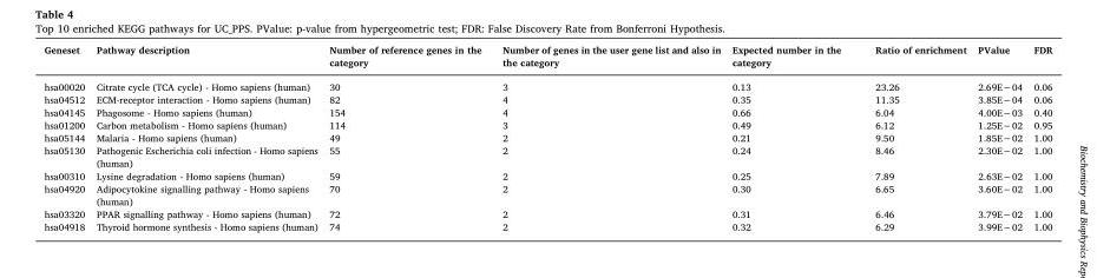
<table><thead><tr><td>Geneset</td><td>Pathway description</td><td>Number of reference genes in the category</td><td>Number of genes in the user gene list and also in the category</td><td>Expected number in the category</td><td>Ratio of enrichment</td><td>PValue</td><td>FDR</td></tr></thead><tbody><tr><td>hsa00020</td><td>Citrate cycle (TCA cycle) - Homo sapiens (human)</td><td>30</td><td>3</td><td>0.13</td><td>23.26</td><td>2.69E−04</td><td>0.06</td></tr><tr><td>hsa04512</td><td>ECM-receptor interaction - Homo sapiens (human)</td><td>82</td><td>4</td><td>0.35</td><td>11.35</td><td>3.85E−04</td><td>0.06</td></tr><tr><td>hsa04145</td><td>Phagosome - Homo sapiens (human)</td><td>154</td><td>4</td><td>0.66</td><td>6.04</td><td>4.00E−03</td><td>0.40</td></tr><tr><td>hsa01200</td><td>Carbon metabolism - Homo sapiens (human)</td><td>114</td><td>3</td><td>0.49</td><td>6.12</td><td>1.25E−02</td><td>0.95</td></tr><tr><td>hsa05144</td><td>Malaria - Homo sapiens (human)</td><td>49</td><td>2</td><td>0.21</td><td>9.50</td><td>1.85E−02</td><td>1.00</td></tr><tr><td>hsa05130</td><td>Pathogenic Escherichia coli infection - Homo sapiens (human)</td><td>55</td><td>2</td><td>0.24</td><td>8.46</td><td>2.30E−02</td><td>1.00</td></tr><tr><td>hsa00310</td><td>Lysine degradation - Homo sapiens (human)</td><td>59</td><td>2</td><td>0.25</td><td>7.89</td><td>2.63E−02</td><td>1.00</td></tr><tr><td>hsa04920</td><td>Adipocytokine signalling pathway - Homo sapiens (human)</td><td>70</td><td>2</td><td>0.30</td><td>6.65</td><td>3.60E−02</td><td>1.00</td></tr><tr><td>hsa03320</td><td>PPAR signalling pathway - Homo sapiens (human)</td><td>72</td><td>2</td><td>0.31</td><td>6.46</td><td>3.79E−02</td><td>1.00</td></tr><tr><td>hsa04918</td><td>Thyroid hormone synthesis - Homo sapiens (human)</td><td>74</td><td>2</td><td>0.32</td><td>6.29</td><td>3.99E−02</td><td>1.00</td></tr></tbody></table>